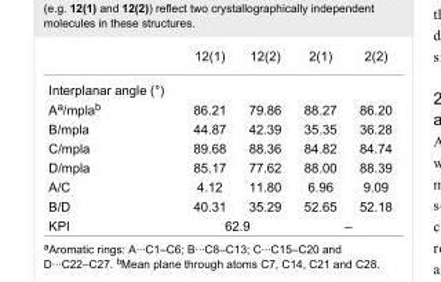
<table><thead><tr><td></td><td>12(1)</td><td>12(2)</td><td>2(1)</td><td>2(2)</td></tr></thead><tbody><tr><td colspan="5">Interplanar angle (°)</td></tr><tr><td>A<sup>a</sup>/mpla<sup>b</sup></td><td>86.21</td><td>79.86</td><td>88.27</td><td>86.20</td></tr><tr><td>B/mpla</td><td>44.87</td><td>42.39</td><td>35.35</td><td>36.28</td></tr><tr><td>C/mpla</td><td>89.68</td><td>88.36</td><td>84.82</td><td>84.74</td></tr><tr><td>D/mpla</td><td>85.17</td><td>77.62</td><td>88.00</td><td>88.39</td></tr><tr><td>A/C</td><td>4.12</td><td>11.80</td><td>6.96</td><td>9.09</td></tr><tr><td>B/D</td><td>40.31</td><td>35.29</td><td>52.65</td><td>52.18</td></tr><tr><td>KPI</td><td colspan="2">62.9</td><td colspan="2">–</td></tr></tbody></table>